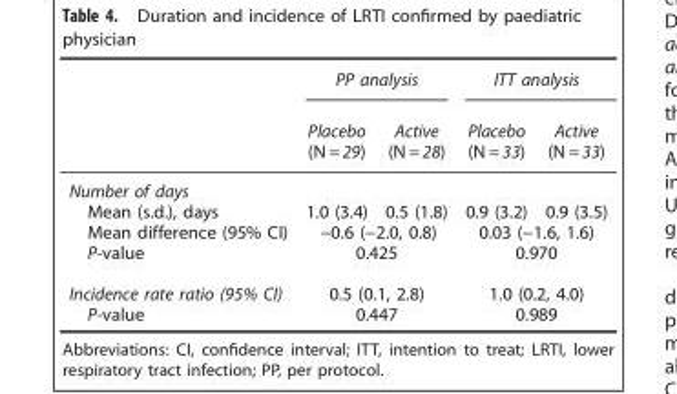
<table><thead><tr><td rowspan="2"></td><td colspan="2">PP analysis</td><td colspan="2">ITT analysis</td></tr><tr><td>Placebo (N = 29)</td><td>Active (N = 28)</td><td>Placebo (N = 33)</td><td>Active (N = 33)</td></tr></thead><tbody><tr><td colspan="5">Number of days</td></tr><tr><td>Mean (s.d.), days</td><td>1.0 (3.4)</td><td>0.5 (1.8)</td><td>0.9 (3.2)</td><td>0.9 (3.5)</td></tr><tr><td>Mean difference (95% CI)</td><td colspan="2">−0.6 (−2.0, 0.8)</td><td colspan="2">0.03 (−1.6, 1.6)</td></tr><tr><td>P-value</td><td colspan="2">0.425</td><td colspan="2">0.970</td></tr><tr><td>Incidence rate ratio (95% CI)</td><td colspan="2">0.5 (0.1, 2.8)</td><td colspan="2">1.0 (0.2, 4.0)</td></tr><tr><td>P-value</td><td colspan="2">0.447</td><td colspan="2">0.989</td></tr></tbody></table>